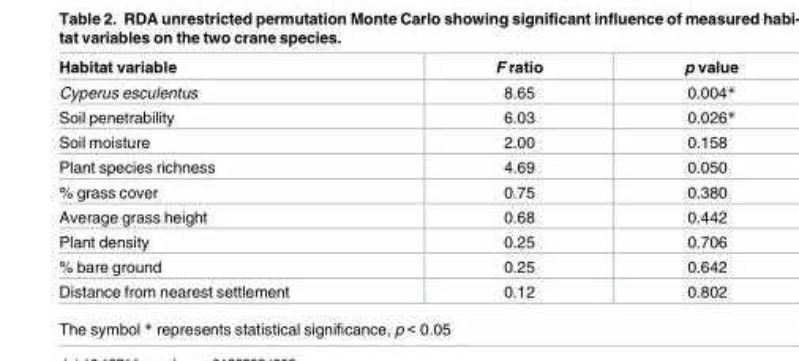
<table><thead><tr><td>Habitat variable</td><td>F ratio</td><td>p value</td></tr></thead><tbody><tr><td>Cyperus esculentus</td><td>8.65</td><td>0.004*</td></tr><tr><td>Soil penetrability</td><td>6.03</td><td>0.026*</td></tr><tr><td>Soil moisture</td><td>2.00</td><td>0.158</td></tr><tr><td>Plant species richness</td><td>4.69</td><td>0.050</td></tr><tr><td>% grass cover</td><td>0.75</td><td>0.380</td></tr><tr><td>Average grass height</td><td>0.68</td><td>0.442</td></tr><tr><td>Plant density</td><td>0.25</td><td>0.706</td></tr><tr><td>% bare ground</td><td>0.25</td><td>0.642</td></tr><tr><td>Distance from nearest settlement</td><td>0.12</td><td>0.802</td></tr></tbody></table>